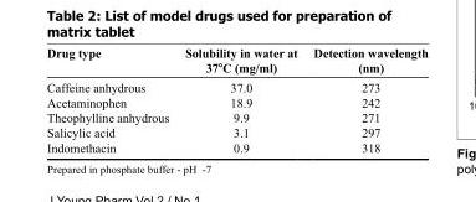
<table><thead><tr><td>Drug type</td><td>Solubility in water at 37°C (mg/ml)</td><td>Detection wavelength (nm)</td></tr></thead><tbody><tr><td>Caffeine anhydrous</td><td>37.0</td><td>273</td></tr><tr><td>Acetaminophen</td><td>18.9</td><td>242</td></tr><tr><td>Theophylline anhydrous</td><td>9.9</td><td>271</td></tr><tr><td>Salicylic acid</td><td>3.1</td><td>297</td></tr><tr><td>Indomethacin</td><td>0.9</td><td>318</td></tr></tbody></table>